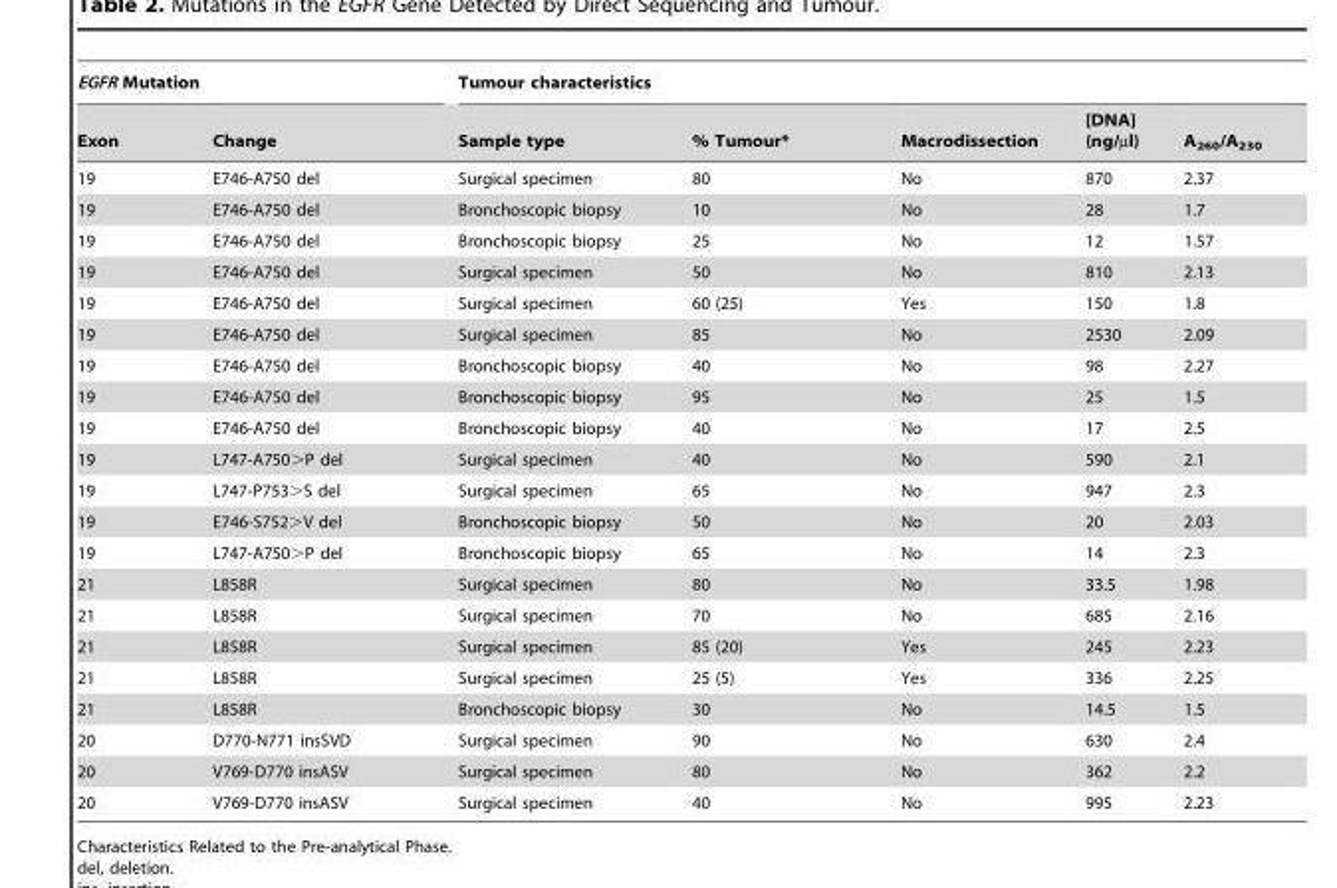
<table><thead><tr><td colspan="2">EGFR Mutation</td><td colspan="5">Tumour characteristics</td></tr><tr><td>Exon</td><td>Change</td><td>Sample type</td><td>% Tumour*</td><td>Macrodissection</td><td>[DNA] (ng/µl)</td><td>A<sub>260</sub>/A<sub>230</sub></td></tr></thead><tbody><tr><td>19</td><td>E746-A750 del</td><td>Surgical specimen</td><td>80</td><td>No</td><td>870</td><td>2.37</td></tr><tr><td>19</td><td>E746-A750 del</td><td>Bronchoscopic biopsy</td><td>10</td><td>No</td><td>28</td><td>1.7</td></tr><tr><td>19</td><td>E746-A750 del</td><td>Bronchoscopic biopsy</td><td>25</td><td>No</td><td>12</td><td>1.57</td></tr><tr><td>19</td><td>E746-A750 del</td><td>Surgical specimen</td><td>50</td><td>No</td><td>810</td><td>2.13</td></tr><tr><td>19</td><td>E746-A750 del</td><td>Surgical specimen</td><td>60 (25)</td><td>Yes</td><td>150</td><td>1.8</td></tr><tr><td>19</td><td>E746-A750 del</td><td>Surgical specimen</td><td>85</td><td>No</td><td>2530</td><td>2.09</td></tr><tr><td>19</td><td>E746-A750 del</td><td>Bronchoscopic biopsy</td><td>40</td><td>No</td><td>98</td><td>2.27</td></tr><tr><td>19</td><td>E746-A750 del</td><td>Bronchoscopic biopsy</td><td>95</td><td>No</td><td>25</td><td>1.5</td></tr><tr><td>19</td><td>E746-A750 del</td><td>Bronchoscopic biopsy</td><td>40</td><td>No</td><td>17</td><td>2.5</td></tr><tr><td>19</td><td>L747-A750&gt;P del</td><td>Surgical specimen</td><td>40</td><td>No</td><td>590</td><td>2.1</td></tr><tr><td>19</td><td>L747-P753&gt;S del</td><td>Surgical specimen</td><td>65</td><td>No</td><td>947</td><td>2.3</td></tr><tr><td>19</td><td>E746-S752&gt;V del</td><td>Bronchoscopic biopsy</td><td>50</td><td>No</td><td>20</td><td>2.03</td></tr><tr><td>19</td><td>L747-A750&gt;P del</td><td>Bronchoscopic biopsy</td><td>65</td><td>No</td><td>14</td><td>2.3</td></tr><tr><td>21</td><td>L858R</td><td>Surgical specimen</td><td>80</td><td>No</td><td>33.5</td><td>1.98</td></tr><tr><td>21</td><td>L858R</td><td>Surgical specimen</td><td>70</td><td>No</td><td>685</td><td>2.16</td></tr><tr><td>21</td><td>L858R</td><td>Surgical specimen</td><td>85 (20)</td><td>Yes</td><td>245</td><td>2.23</td></tr><tr><td>21</td><td>L858R</td><td>Surgical specimen</td><td>25 (5)</td><td>Yes</td><td>336</td><td>2.25</td></tr><tr><td>21</td><td>L858R</td><td>Bronchoscopic biopsy</td><td>30</td><td>No</td><td>14.5</td><td>1.5</td></tr><tr><td>20</td><td>D770-N771 insSVD</td><td>Surgical specimen</td><td>90</td><td>No</td><td>630</td><td>2.4</td></tr><tr><td>20</td><td>V769-D770 insASV</td><td>Surgical specimen</td><td>80</td><td>No</td><td>362</td><td>2.2</td></tr><tr><td>20</td><td>V769-D770 insASV</td><td>Surgical specimen</td><td>40</td><td>No</td><td>995</td><td>2.23</td></tr></tbody></table>